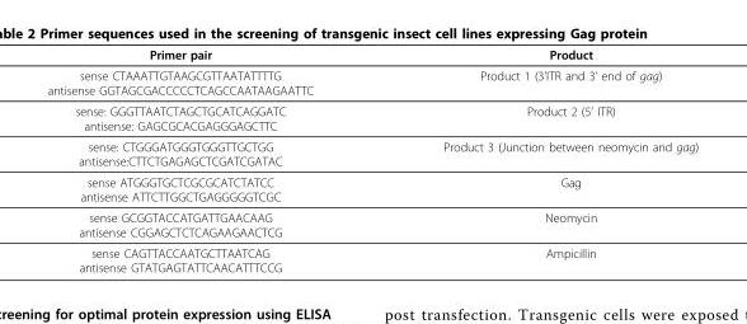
<table><thead><tr><td>Primer pair</td><td>Product</td></tr></thead><tbody><tr><td>sense CTAAATTGTAAGCGTTAATATTTTG antisense GGTAGCGACCCCCTCAGCCAATAAGAATTC</td><td>Product 1 (3’ITR and 3’ end of gag)</td></tr><tr><td>sense: GGGTTAATCTAGCTGCATCAGGATC antisense: GAGCGCACGAGGGAGCTTC</td><td>Product 2 (5’ ITR)</td></tr><tr><td>sense: CTGGGATGGGTGGGTTGCTGG antisense:CTTCTGAGAGCTCGATCGATAC</td><td>Product 3 (Junction between neomycin and gag)</td></tr><tr><td>sense ATGGGTGCTCGCGCATCTATCC antisense ATTCTTGGCTGAGGGGGTCGC</td><td>Gag</td></tr><tr><td>sense GCGGTACCATGATTGAACAAG antisense CGGAGCTCTCAGAAGAACTCG</td><td>Neomycin</td></tr><tr><td>sense CAGTTACCAATGCTTAATCAG antisense GTATGAGTATTCAACATTTCCG</td><td>Ampicillin</td></tr></tbody></table>